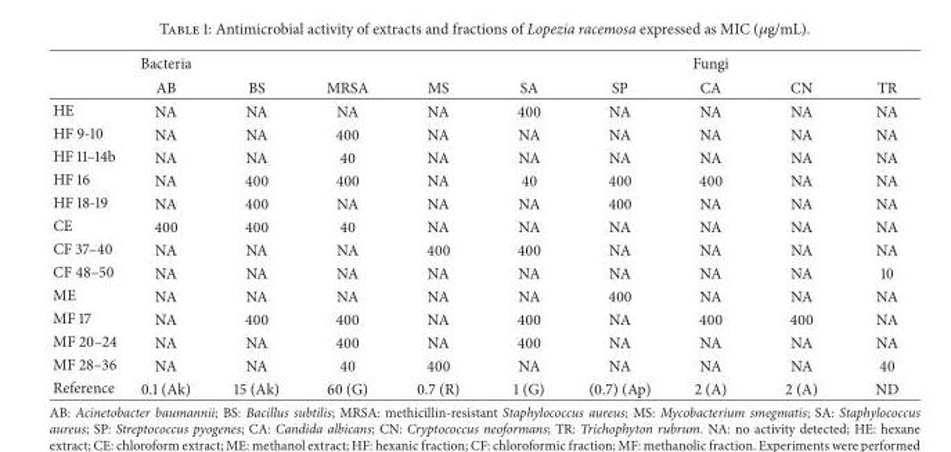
<table><thead><tr><td rowspan="2"></td><td rowspan="2">Bacteria AB</td><td rowspan="2">BS</td><td rowspan="2">MRSA</td><td rowspan="2">MS</td><td rowspan="2">SA</td><td rowspan="2">SP</td><td rowspan="2">Fungi CA</td><td rowspan="2">CN</td><td rowspan="2">TR</td></tr><tr></tr></thead><tbody><tr><td>HE</td><td>NA</td><td>NA</td><td>NA</td><td>NA</td><td>400</td><td>NA</td><td>NA</td><td>NA</td><td>NA</td></tr><tr><td>HF 9-10</td><td>NA</td><td>NA</td><td>400</td><td>NA</td><td>NA</td><td>NA</td><td>NA</td><td>NA</td><td>NA</td></tr><tr><td>HF 11–14b</td><td>NA</td><td>NA</td><td>40</td><td>NA</td><td>NA</td><td>NA</td><td>NA</td><td>NA</td><td>NA</td></tr><tr><td>HF 16</td><td>NA</td><td>400</td><td>400</td><td>NA</td><td>40</td><td>400</td><td>400</td><td>NA</td><td>NA</td></tr><tr><td>HF 18-19</td><td>NA</td><td>400</td><td>NA</td><td>NA</td><td>NA</td><td>400</td><td>NA</td><td>NA</td><td>NA</td></tr><tr><td>CE</td><td>400</td><td>400</td><td>40</td><td>NA</td><td>NA</td><td>NA</td><td>NA</td><td>NA</td><td>NA</td></tr><tr><td>CF 37–40</td><td>NA</td><td>NA</td><td>NA</td><td>400</td><td>400</td><td>NA</td><td>NA</td><td>NA</td><td>NA</td></tr><tr><td>CF 48–50</td><td>NA</td><td>NA</td><td>NA</td><td>NA</td><td>NA</td><td>NA</td><td>NA</td><td>NA</td><td>10</td></tr><tr><td>ME</td><td>NA</td><td>NA</td><td>NA</td><td>NA</td><td>NA</td><td>400</td><td>NA</td><td>NA</td><td>NA</td></tr><tr><td>MF 17</td><td>NA</td><td>400</td><td>400</td><td>NA</td><td>400</td><td>NA</td><td>400</td><td>400</td><td>NA</td></tr><tr><td>MF 20–24</td><td>NA</td><td>NA</td><td>400</td><td>NA</td><td>400</td><td>NA</td><td>NA</td><td>NA</td><td>NA</td></tr><tr><td>MF 28–36</td><td>NA</td><td>NA</td><td>40</td><td>400</td><td>NA</td><td>NA</td><td>NA</td><td>NA</td><td>40</td></tr><tr><td>Reference</td><td>0.1 (Ak)</td><td>15 (Ak)</td><td>60 (G)</td><td>0.7 (R)</td><td>1 (G)</td><td>(0.7) (Ap)</td><td>2 (A)</td><td>2 (A)</td><td>ND</td></tr></tbody></table>